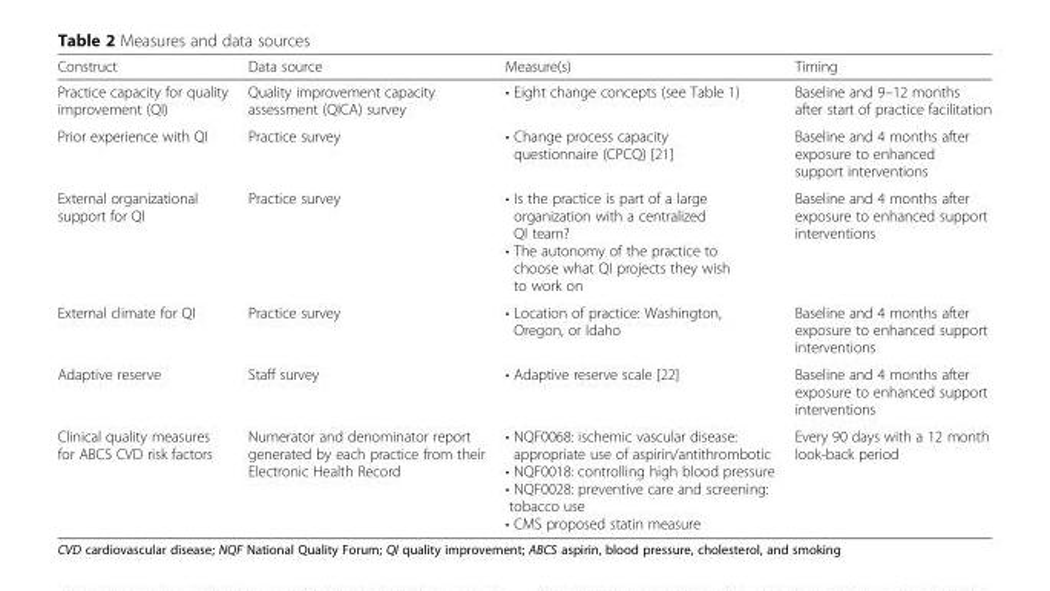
<table><thead><tr><td>Construct</td><td>Data source</td><td>Measure(s)</td><td>Timing</td></tr></thead><tbody><tr><td>Practice capacity for quality improvement (QI)</td><td>Quality improvement capacity assessment (QICA) survey</td><td>• Eight change concepts (see Table 1)</td><td>Baseline and 9–12 months after start of practice facilitation</td></tr><tr><td>Prior experience with QI</td><td>Practice survey</td><td>• Change process capacity questionnaire (CPCQ) [21]</td><td>Baseline and 4 months after exposure to enhanced support interventions</td></tr><tr><td>External organizational support for QI</td><td>Practice survey</td><td>• Is the practice is part of a large organization with a centralized QI team? • The autonomy of the practice to choose what QI projects they wish to work on</td><td>Baseline and 4 months after exposure to enhanced support interventions</td></tr><tr><td>External climate for QI</td><td>Practice survey</td><td>• Location of practice: Washington, Oregon, or Idaho</td><td>Baseline and 4 months after exposure to enhanced support interventions</td></tr><tr><td>Adaptive reserve</td><td>Staff survey</td><td>• Adaptive reserve scale [22]</td><td>Baseline and 4 months after exposure to enhanced support interventions</td></tr><tr><td>Clinical quality measures for ABCS CVD risk factors</td><td>Numerator and denominator report generated by each practice from their Electronic Health Record</td><td>• NQF0068: ischemic vascular disease: appropriate use of aspirin/antithrombotic • NQF0018: controlling high blood pressure • NQF0028: preventive care and screening: tobacco use • CMS proposed statin measure</td><td>Every 90 days with a 12 month look-back period</td></tr></tbody></table>